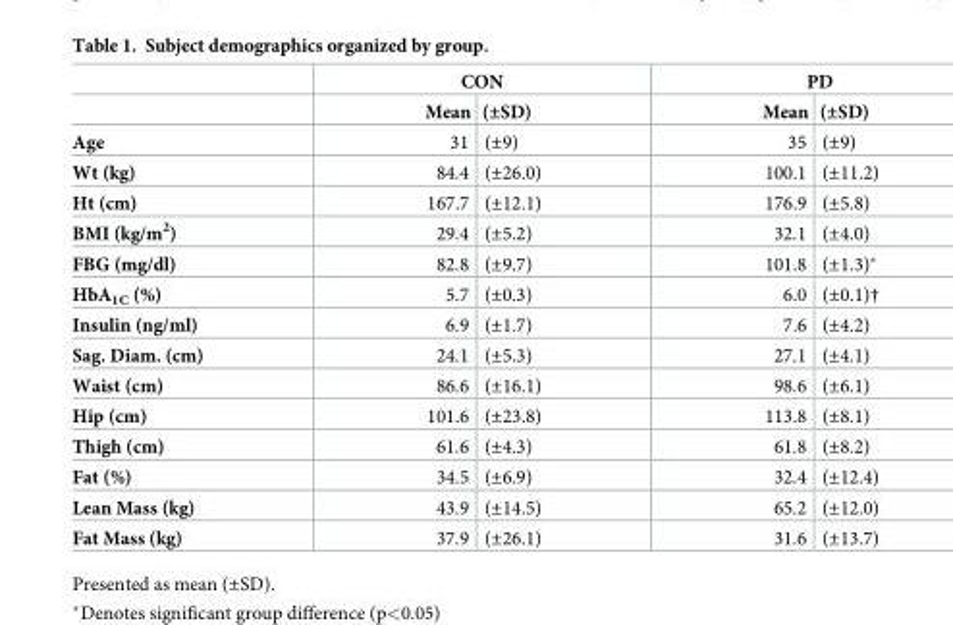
<table><thead><tr><td rowspan="2"></td><td colspan="2">CON</td><td colspan="2">PD</td></tr><tr><td>Mean</td><td>(±SD)</td><td>Mean</td><td>(±SD)</td></tr></thead><tbody><tr><td>Age</td><td>31</td><td>(±9)</td><td>35</td><td>(±9)</td></tr><tr><td>Wt (kg)</td><td>84.4</td><td>(±26.0)</td><td>100.1</td><td>(±11.2)</td></tr><tr><td>Ht (cm)</td><td>167.7</td><td>(±12.1)</td><td>176.9</td><td>(±5.8)</td></tr><tr><td>BMI (kg/m<sup>2</sup>)</td><td>29.4</td><td>(±5.2)</td><td>32.1</td><td>(±4.0)</td></tr><tr><td>FBG (mg/dl)</td><td>82.8</td><td>(±9.7)</td><td>101.8</td><td>(±1.3)*</td></tr><tr><td>HbA<sub>1C</sub> (%)</td><td>5.7</td><td>(±0.3)</td><td>6.0</td><td>(±0.1)†</td></tr><tr><td>Insulin (ng/ml)</td><td>6.9</td><td>(±1.7)</td><td>7.6</td><td>(±4.2)</td></tr><tr><td>Sag. Diam. (cm)</td><td>24.1</td><td>(±5.3)</td><td>27.1</td><td>(±4.1)</td></tr><tr><td>Waist (cm)</td><td>86.6</td><td>(±16.1)</td><td>98.6</td><td>(±6.1)</td></tr><tr><td>Hip (cm)</td><td>101.6</td><td>(±23.8)</td><td>113.8</td><td>(±8.1)</td></tr><tr><td>Thigh (cm)</td><td>61.6</td><td>(±4.3)</td><td>61.8</td><td>(±8.2)</td></tr><tr><td>Fat (%)</td><td>34.5</td><td>(±6.9)</td><td>32.4</td><td>(±12.4)</td></tr><tr><td>Lean Mass (kg)</td><td>43.9</td><td>(±14.5)</td><td>65.2</td><td>(±12.0)</td></tr><tr><td>Fat Mass (kg)</td><td>37.9</td><td>(±26.1)</td><td>31.6</td><td>(±13.7)</td></tr></tbody></table>